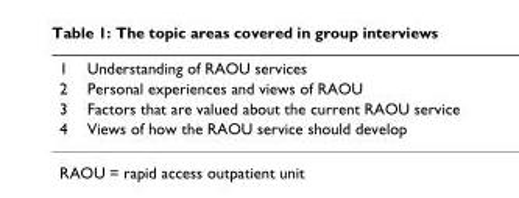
<table><tbody><tr><td>1</td><td>Understanding of RAOU services</td></tr><tr><td>2</td><td>Personal experiences and views of RAOU</td></tr><tr><td>3</td><td>Factors that are valued about the current RAOU service</td></tr><tr><td>4</td><td>Views of how the RAOU service should develop</td></tr></tbody></table>